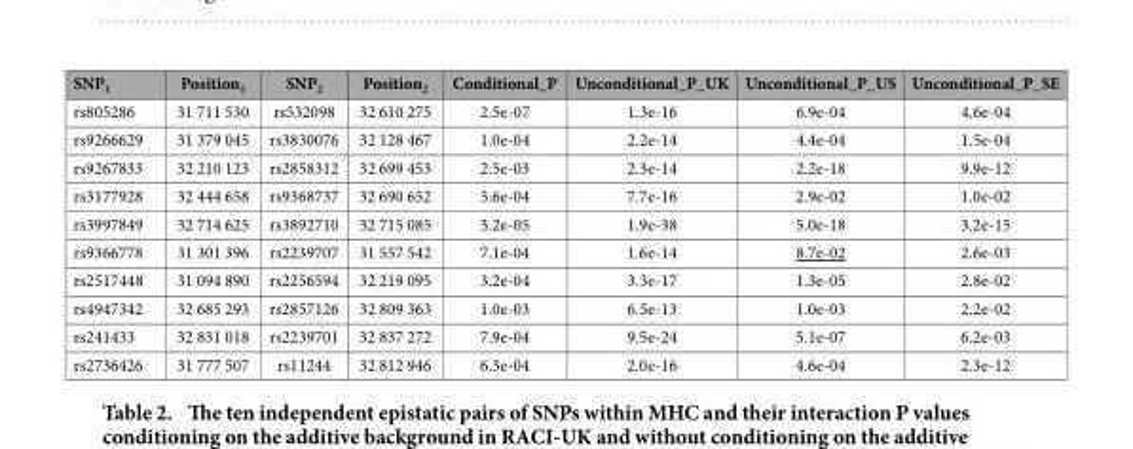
<table><thead><tr><td>SNP<sub>1</sub></td><td>Position<sub>1</sub></td><td>SNP<sub>2</sub></td><td>Position<sub>2</sub></td><td>Conditional_P</td><td>Unconditional_P_UK</td><td>Unconditional_P_US</td><td>Unconditional_P_SE</td></tr></thead><tbody><tr><td>rs805286</td><td>31 711 530</td><td>rs532098</td><td>32 610 275</td><td>2.5e-07</td><td>1.3e-16</td><td>6.9e-04</td><td>4.6e-04</td></tr><tr><td>rs9266629</td><td>31 379 045</td><td>rs3830076</td><td>32 128 467</td><td>1.0e-04</td><td>2.2e-14</td><td>4.4e-04</td><td>1.5e-04</td></tr><tr><td>rs9267833</td><td>32 210 123</td><td>rs2858312</td><td>32 699 453</td><td>2.5e-03</td><td>2.3e-14</td><td>2.2e-18</td><td>9.9e-12</td></tr><tr><td>rs3177928</td><td>32 444 658</td><td>rs9368737</td><td>32 690 652</td><td>5.6e-04</td><td>7.7e-16</td><td>2.9e-02</td><td>1.0e-02</td></tr><tr><td>rs3997849</td><td>32 714 625</td><td>rs3892710</td><td>32 715 085</td><td>3.2e-05</td><td>1.9e-38</td><td>5.0e-18</td><td>3.2e-15</td></tr><tr><td>rs9366778</td><td>31 301 396</td><td>rs2239707</td><td>31 557 542</td><td>7.1e-04</td><td>1.6e-14</td><td>8.7e-02</td><td>2.6e-03</td></tr><tr><td>rs2517448</td><td>31 094 890</td><td>rs2256594</td><td>32 219 095</td><td>3.2e-04</td><td>3.3e-17</td><td>1.3e-05</td><td>2.8e-02</td></tr><tr><td>rs4947342</td><td>32 685 293</td><td>rs2857126</td><td>32 809 363</td><td>1.0e-03</td><td>6.5e-13</td><td>1.0e-03</td><td>2.2e-02</td></tr><tr><td>rs241433</td><td>32 831 018</td><td>rs2239701</td><td>32 837 272</td><td>7.9e-04</td><td>9.5e-24</td><td>5.1e-07</td><td>6.2e-03</td></tr><tr><td>rs2736426</td><td>31 777 507</td><td>rs11244</td><td>32 812 946</td><td>6.3e-04</td><td>2.0e-16</td><td>4.6e-04</td><td>2.3e-12</td></tr></tbody></table>